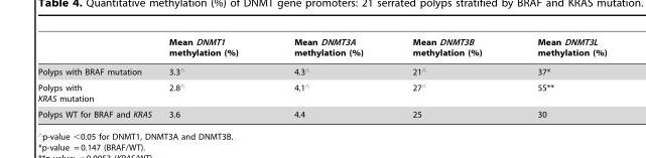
<table><thead><tr><td></td><td>Mean DNMT1 methylation (%)</td><td>Mean DNMT3A methylation (%)</td><td>Mean DNMT3B methylation (%)</td><td>Mean DNMT3L methylation (%)</td></tr></thead><tbody><tr><td>Polyps with BRAF mutation</td><td>3.3‘</td><td>4.3‘</td><td>21‘</td><td>37*</td></tr><tr><td>Polyps with KRAS mutation</td><td>2.8‘</td><td>4.1‘</td><td>27‘</td><td>55**</td></tr><tr><td>Polyps WT for BRAF and KRAS</td><td>3.6</td><td>4.4</td><td>25</td><td>30</td></tr></tbody></table>